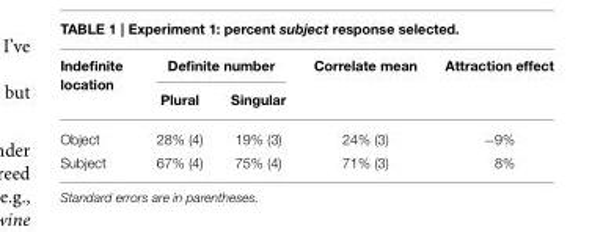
<table><thead><tr><td rowspan="2">Indefinite location</td><td colspan="2">Definite number</td><td rowspan="2">Correlate mean</td><td rowspan="2">Attraction effect</td></tr><tr><td>Plural</td><td>Singular</td></tr></thead><tbody><tr><td>Object</td><td>28% (4)</td><td>19% (3)</td><td>24% (3)</td><td>−9%</td></tr><tr><td>Subject</td><td>67% (4)</td><td>75% (4)</td><td>71% (3)</td><td>8%</td></tr></tbody></table>